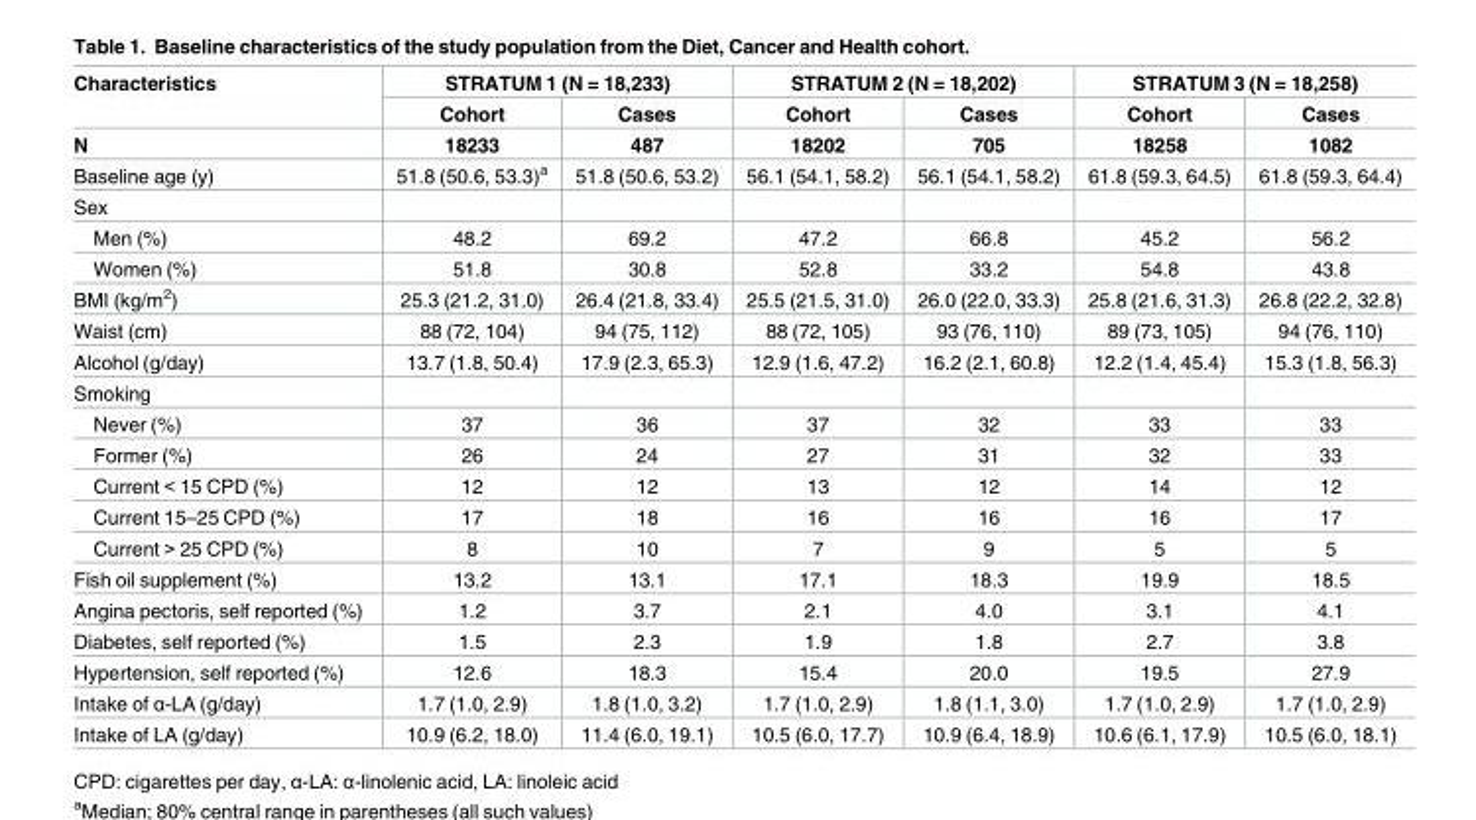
<table><thead><tr><td rowspan="3">Characteristics N</td><td colspan="2">STRATUM 1 (N = 18,233)</td><td colspan="2">STRATUM 2 (N = 18,202)</td><td colspan="2">STRATUM 3 (N = 18,258)</td></tr><tr><td rowspan="2">Cohort 18233</td><td rowspan="2">Cases 487</td><td rowspan="2">Cohort 18202</td><td rowspan="2">Cases 705</td><td rowspan="2">Cohort 18258</td><td rowspan="2">Cases 1082</td></tr><tr></tr></thead><tbody><tr><td>Baseline age (y)</td><td>51.8 (50.6, 53.3)<sup>a</sup></td><td>51.8 (50.6, 53.2)</td><td>56.1 (54.1, 58.2)</td><td>56.1 (54.1, 58.2)</td><td>61.8 (59.3, 64.5)</td><td>61.8 (59.3, 64.4)</td></tr><tr><td colspan="7">Sex</td></tr><tr><td>Men (%)</td><td>48.2</td><td>69.2</td><td>47.2</td><td>66.8</td><td>45.2</td><td>56.2</td></tr><tr><td>Women (%)</td><td>51.8</td><td>30.8</td><td>52.8</td><td>33.2</td><td>54.8</td><td>43.8</td></tr><tr><td>BMI (kg/m<sup>2</sup>)</td><td>25.3 (21.2, 31.0)</td><td>26.4 (21.8, 33.4)</td><td>25.5 (21.5, 31.0)</td><td>26.0 (22.0, 33.3)</td><td>25.8 (21.6, 31.3)</td><td>26.8 (22.2, 32.8)</td></tr><tr><td>Waist (cm)</td><td>88 (72, 104)</td><td>94 (75, 112)</td><td>88 (72, 105)</td><td>93 (76, 110)</td><td>89 (73, 105)</td><td>94 (76, 110)</td></tr><tr><td>Alcohol (g/day)</td><td>13.7 (1.8, 50.4)</td><td>17.9 (2.3, 65.3)</td><td>12.9 (1.6, 47.2)</td><td>16.2 (2.1, 60.8)</td><td>12.2 (1.4, 45.4)</td><td>15.3 (1.8, 56.3)</td></tr><tr><td colspan="7">Smoking</td></tr><tr><td>Never (%)</td><td>37</td><td>36</td><td>37</td><td>32</td><td>33</td><td>33</td></tr><tr><td>Former (%)</td><td>26</td><td>24</td><td>27</td><td>31</td><td>32</td><td>33</td></tr><tr><td>Current &lt; 15 CPD (%)</td><td>12</td><td>12</td><td>13</td><td>12</td><td>14</td><td>12</td></tr><tr><td>Current 15–25 CPD (%)</td><td>17</td><td>18</td><td>16</td><td>16</td><td>16</td><td>17</td></tr><tr><td>Current &gt; 25 CPD (%)</td><td>8</td><td>10</td><td>7</td><td>9</td><td>5</td><td>5</td></tr><tr><td>Fish oil supplement (%)</td><td>13.2</td><td>13.1</td><td>17.1</td><td>18.3</td><td>19.9</td><td>18.5</td></tr><tr><td>Angina pectoris, self reported (%)</td><td>1.2</td><td>3.7</td><td>2.1</td><td>4.0</td><td>3.1</td><td>4.1</td></tr><tr><td>Diabetes, self reported (%)</td><td>1.5</td><td>2.3</td><td>1.9</td><td>1.8</td><td>2.7</td><td>3.8</td></tr><tr><td>Hypertension, self reported (%)</td><td>12.6</td><td>18.3</td><td>15.4</td><td>20.0</td><td>19.5</td><td>27.9</td></tr><tr><td>Intake of α-LA (g/day)</td><td>1.7 (1.0, 2.9)</td><td>1.8 (1.0, 3.2)</td><td>1.7 (1.0, 2.9)</td><td>1.8 (1.1, 3.0)</td><td>1.7 (1.0, 2.9)</td><td>1.7 (1.0, 2.9)</td></tr><tr><td>Intake of LA (g/day)</td><td>10.9 (6.2, 18.0)</td><td>11.4 (6.0, 19.1)</td><td>10.5 (6.0, 17.7)</td><td>10.9 (6.4, 18.9)</td><td>10.6 (6.1, 17.9)</td><td>10.5 (6.0, 18.1)</td></tr></tbody></table>